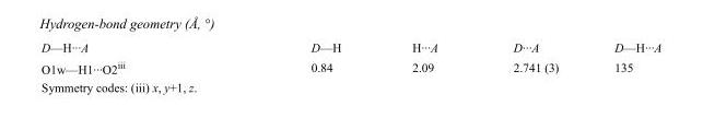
<table><tbody><tr><td>D—H···A</td><td>D—H</td><td>H···A</td><td>D···A</td><td>D—H···A</td></tr><tr><td>O1w—H1···O2<sup>iii</sup></td><td>0.84</td><td>2.09</td><td>2.741 (3)</td><td>135</td></tr></tbody></table>